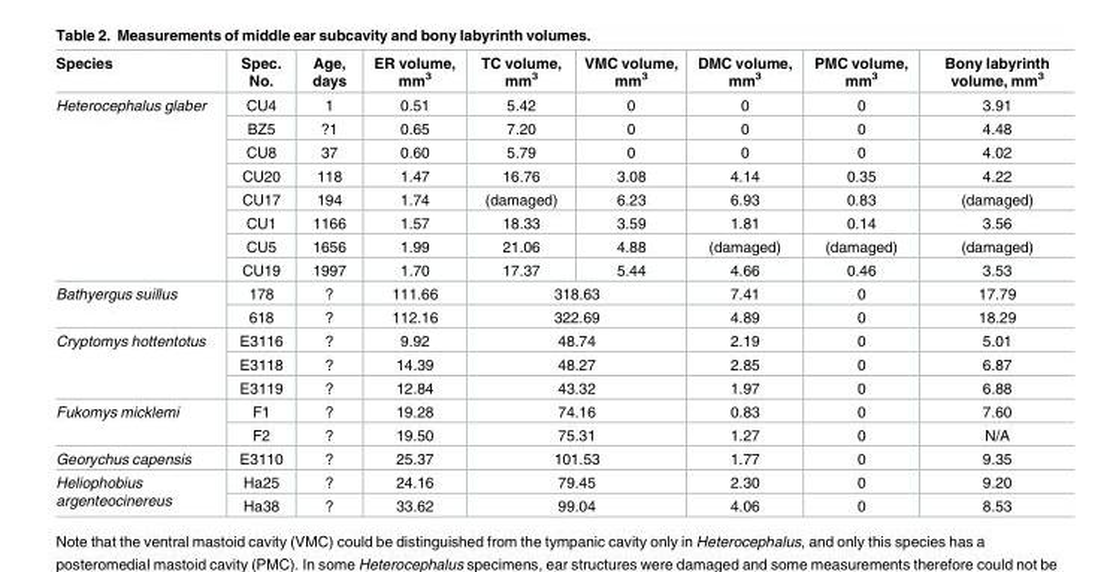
<table><thead><tr><td>Species</td><td>Spec. No.</td><td>Age, days</td><td>ER volume, mm<sup>3</sup></td><td>TC volume, mm<sup>3</sup></td><td>VMC volume, mm<sup>3</sup></td><td>DMC volume, mm<sup>3</sup></td><td>PMC volume, mm<sup>3</sup></td><td>Bony labyrinth volume, mm<sup>3</sup></td></tr></thead><tbody><tr><td rowspan="8">Heterocephalus glaber</td><td>CU4</td><td>1</td><td>0.51</td><td>5.42</td><td>0</td><td>0</td><td>0</td><td>3.91</td></tr><tr><td>BZ5</td><td>?1</td><td>0.65</td><td>7.20</td><td>0</td><td>0</td><td>0</td><td>4.48</td></tr><tr><td>CU8</td><td>37</td><td>0.60</td><td>5.79</td><td>0</td><td>0</td><td>0</td><td>4.02</td></tr><tr><td>CU20</td><td>118</td><td>1.47</td><td>16.76</td><td>3.08</td><td>4.14</td><td>0.35</td><td>4.22</td></tr><tr><td>CU17</td><td>194</td><td>1.74</td><td>(damaged)</td><td>6.23</td><td>6.93</td><td>0.83</td><td>(damaged)</td></tr><tr><td>CU1</td><td>1166</td><td>1.57</td><td>18.33</td><td>3.59</td><td>1.81</td><td>0.14</td><td>3.56</td></tr><tr><td>CU5</td><td>1656</td><td>1.99</td><td>21.06</td><td>4.88</td><td>(damaged)</td><td>(damaged)</td><td>(damaged)</td></tr><tr><td>CU19</td><td>1997</td><td>1.70</td><td>17.37</td><td>5.44</td><td>4.66</td><td>0.46</td><td>3.53</td></tr><tr><td rowspan="2">Bathyergus suillus</td><td>178</td><td>?</td><td>111.66</td><td colspan="2">318.63</td><td>7.41</td><td>0</td><td>17.79</td></tr><tr><td>618</td><td>?</td><td>112.16</td><td colspan="2">322.69</td><td>4.89</td><td>0</td><td>18.29</td></tr><tr><td rowspan="3">Cryptomys hottentotus</td><td>E3116</td><td>?</td><td>9.92</td><td colspan="2">48.74</td><td>2.19</td><td>0</td><td>5.01</td></tr><tr><td>E3118</td><td>?</td><td>14.39</td><td colspan="2">48.27</td><td>2.85</td><td>0</td><td>6.87</td></tr><tr><td>E3119</td><td>?</td><td>12.84</td><td colspan="2">43.32</td><td>1.97</td><td>0</td><td>6.88</td></tr><tr><td rowspan="2">Fukomys micklemi</td><td>F1</td><td>?</td><td>19.28</td><td colspan="2">74.16</td><td>0.83</td><td>0</td><td>7.60</td></tr><tr><td>F2</td><td>?</td><td>19.50</td><td colspan="2">75.31</td><td>1.27</td><td>0</td><td>N/A</td></tr><tr><td>Georychus capensis</td><td>E3110</td><td>?</td><td>25.37</td><td colspan="2">101.53</td><td>1.77</td><td>0</td><td>9.35</td></tr><tr><td rowspan="2">Heliophobius argenteocinereus</td><td>Ha25</td><td>?</td><td>24.16</td><td colspan="2">79.45</td><td>2.30</td><td>0</td><td>9.20</td></tr><tr><td>Ha38</td><td>?</td><td>33.62</td><td colspan="2">99.04</td><td>4.06</td><td>0</td><td>8.53</td></tr></tbody></table>